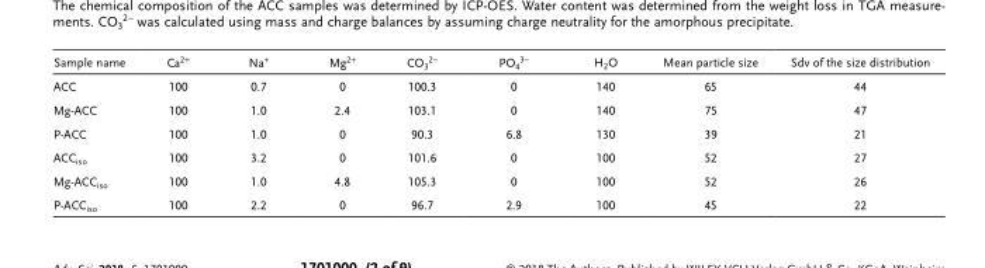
<table><thead><tr><td>Sample name</td><td>Ca<sup>2+</sup></td><td>Na<sup>+</sup></td><td>Mg<sup>2+</sup></td><td>CO<sub>3</sub><sup>2−</sup></td><td>PO<sub>4</sub><sup>3−</sup></td><td>H<sub>2</sub>O</td><td>Mean particle size</td><td>Sdv of the size distribution</td></tr></thead><tbody><tr><td>ACC</td><td>100</td><td>0.7</td><td>0</td><td>100.3</td><td>0</td><td>140</td><td>65</td><td>44</td></tr><tr><td>Mg-ACC</td><td>100</td><td>1.0</td><td>2.4</td><td>103.1</td><td>0</td><td>140</td><td>75</td><td>47</td></tr><tr><td>P-ACC</td><td>100</td><td>1.0</td><td>0</td><td>90.3</td><td>6.8</td><td>130</td><td>39</td><td>21</td></tr><tr><td>ACC<sub>iso</sub></td><td>100</td><td>3.2</td><td>0</td><td>101.6</td><td>0</td><td>100</td><td>52</td><td>27</td></tr><tr><td>Mg-ACC<sub>iso</sub></td><td>100</td><td>1.0</td><td>4.8</td><td>105.3</td><td>0</td><td>100</td><td>52</td><td>26</td></tr><tr><td>P-ACC<sub>iso</sub></td><td>100</td><td>2.2</td><td>0</td><td>96.7</td><td>2.9</td><td>100</td><td>45</td><td>22</td></tr></tbody></table>